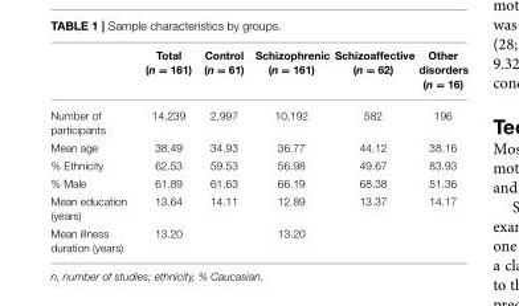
<table><thead><tr><td></td><td>Total (n = 161)</td><td>Control (n = 61)</td><td>Schizophrenic (n = 161)</td><td>Schizoaffective (n = 62)</td><td>Other disorders (n = 16)</td></tr></thead><tbody><tr><td>Number of participants</td><td>14,239</td><td>2,997</td><td>10,192</td><td>582</td><td>196</td></tr><tr><td>Mean age</td><td>38.49</td><td>34.93</td><td>36.77</td><td>44.12</td><td>38.16</td></tr><tr><td>% Ethnicity</td><td>62.53</td><td>59.53</td><td>56.98</td><td>49.67</td><td>83.93</td></tr><tr><td>% Male</td><td>61.89</td><td>61.63</td><td>66.19</td><td>68.38</td><td>51.36</td></tr><tr><td>Mean education (years)</td><td>13.64</td><td>14.11</td><td>12.89</td><td>13.37</td><td>14.17</td></tr><tr><td>Mean illness duration (years)</td><td>13.20</td><td></td><td>13.20</td><td></td><td></td></tr></tbody></table>